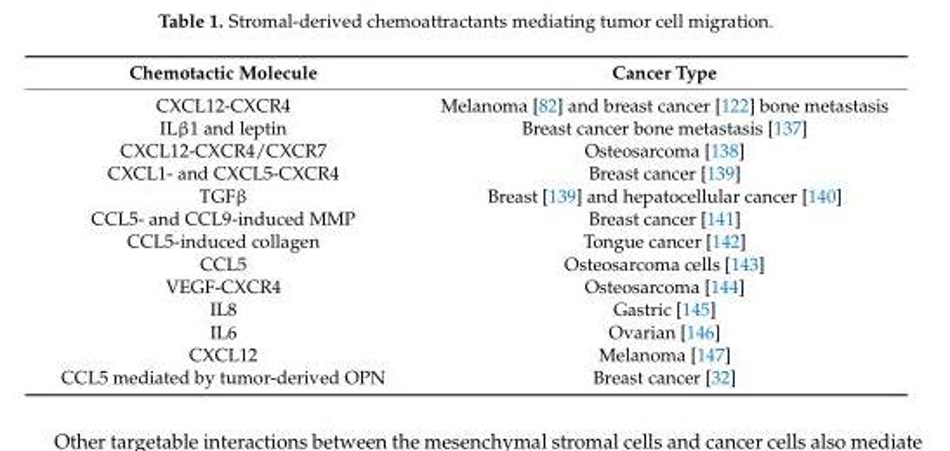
<table><thead><tr><td>Chemotactic Molecule</td><td>Cancer Type</td></tr></thead><tbody><tr><td>CXCL12-CXCR4</td><td>Melanoma [82] and breast cancer [122] bone metastasis</td></tr><tr><td>ILβ1 and leptin</td><td>Breast cancer bone metastasis [137]</td></tr><tr><td>CXCL12-CXCR4/CXCR7</td><td>Osteosarcoma [138]</td></tr><tr><td>CXCL1- and CXCL5-CXCR4</td><td>Breast cancer [139]</td></tr><tr><td>TGFβ</td><td>Breast [139] and hepatocellular cancer [140]</td></tr><tr><td>CCL5- and CCL9-induced MMP</td><td>Breast cancer [141]</td></tr><tr><td>CCL5-induced collagen</td><td>Tongue cancer [142]</td></tr><tr><td>CCL5</td><td>Osteosarcoma cells [143]</td></tr><tr><td>VEGF-CXCR4</td><td>Osteosarcoma [144]</td></tr><tr><td>IL8</td><td>Gastric [145]</td></tr><tr><td>IL6</td><td>Ovarian [146]</td></tr><tr><td>CXCL12</td><td>Melanoma [147]</td></tr><tr><td>CCL5 mediated by tumor-derived OPN</td><td>Breast cancer [32]</td></tr></tbody></table>